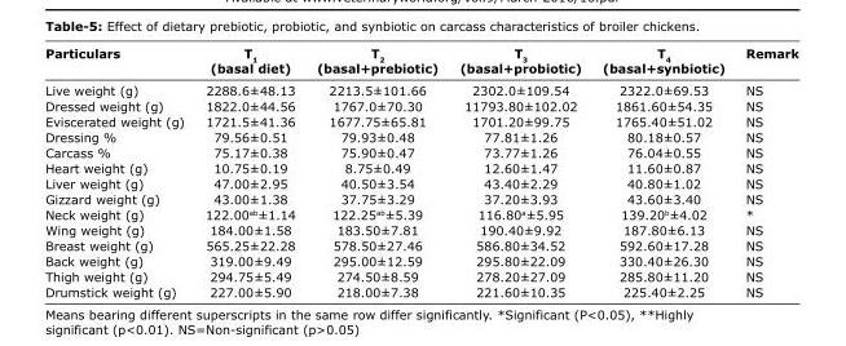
<table><thead><tr><td>Particulars</td><td>T<sub>1</sub> (basal diet)</td><td>T<sub>2</sub> (basal+prebiotic)</td><td>T<sub>3</sub> (basal+probiotic)</td><td>T<sub>4</sub> (basal+synbiotic)</td><td>Remark</td></tr></thead><tbody><tr><td>Live weight (g)</td><td>2288.6±48.13</td><td>2213.5±101.66</td><td>2302.0±109.54</td><td>2322.0±69.53</td><td>NS</td></tr><tr><td>Dressed weight (g)</td><td>1822.0±44.56</td><td>1767.0±70.30</td><td>11793.80±102.02</td><td>1861.60±54.35</td><td>NS</td></tr><tr><td>Eviscerated weight (g)</td><td>1721.5±41.36</td><td>1677.75±65.81</td><td>1701.20±99.75</td><td>1765.40±51.02</td><td>NS</td></tr><tr><td>Dressing %</td><td>79.56±0.51</td><td>79.93±0.48</td><td>77.81±1.26</td><td>80.18±0.57</td><td>NS</td></tr><tr><td>Carcass %</td><td>75.17±0.38</td><td>75.90±0.47</td><td>73.77±1.26</td><td>76.04±0.55</td><td>NS</td></tr><tr><td>Heart weight (g)</td><td>10.75±0.19</td><td>8.75±0.49</td><td>12.60±1.47</td><td>11.60±0.87</td><td>NS</td></tr><tr><td>Liver weight (g)</td><td>47.00±2.95</td><td>40.50±3.54</td><td>43.40±2.29</td><td>40.80±1.02</td><td>NS</td></tr><tr><td>Gizzard weight (g)</td><td>43.00±1.38</td><td>37.75±3.29</td><td>37.20±3.93</td><td>43.60±3.40</td><td>NS</td></tr><tr><td>Neck weight (g)</td><td>122.00<sup>ab</sup>±1.14</td><td>122.25<sup>ab</sup>±5.39</td><td>116.80<sup>a</sup>±5.95</td><td>139.20<sup>b</sup>±4.02</td><td>*</td></tr><tr><td>Wing weight (g)</td><td>184.00±1.58</td><td>183.50±7.81</td><td>190.40±9.92</td><td>187.80±6.13</td><td>NS</td></tr><tr><td>Breast weight (g)</td><td>565.25±22.28</td><td>578.50±27.46</td><td>586.80±34.52</td><td>592.60±17.28</td><td>NS</td></tr><tr><td>Back weight (g)</td><td>319.00±9.49</td><td>295.00±12.59</td><td>295.80±22.09</td><td>330.40±26.30</td><td>NS</td></tr><tr><td>Thigh weight (g)</td><td>294.75±5.49</td><td>274.50±8.59</td><td>278.20±27.09</td><td>285.80±11.20</td><td>NS</td></tr><tr><td>Drumstick weight (g)</td><td>227.00±5.90</td><td>218.00±7.38</td><td>221.60±10.35</td><td>225.40±2.25</td><td>NS</td></tr></tbody></table>